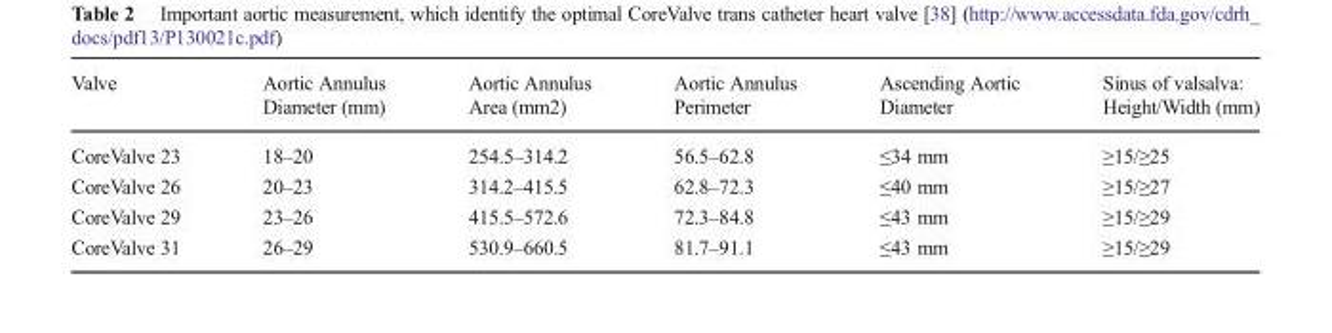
<table><thead><tr><td>Valve</td><td>Aortic Annulus Diameter (mm)</td><td>Aortic Annulus Area (mm2)</td><td>Aortic Annulus Perimeter</td><td>Ascending Aortic Diameter</td><td>Sinus of valsalva: Height/Width (mm)</td></tr></thead><tbody><tr><td>CoreValve 23</td><td>18–20</td><td>254.5–314.2</td><td>56.5–62.8</td><td>≤34 mm</td><td>≥15/≥25</td></tr><tr><td>CoreValve 26</td><td>20–23</td><td>314.2–415.5</td><td>62.8–72.3</td><td>≤40 mm</td><td>≥15/≥27</td></tr><tr><td>CoreValve 29</td><td>23–26</td><td>415.5–572.6</td><td>72.3–84.8</td><td>≤43 mm</td><td>≥15/≥29</td></tr><tr><td>CoreValve 31</td><td>26–29</td><td>530.9–660.5</td><td>81.7–91.1</td><td>≤43 mm</td><td>≥15/≥29</td></tr></tbody></table>